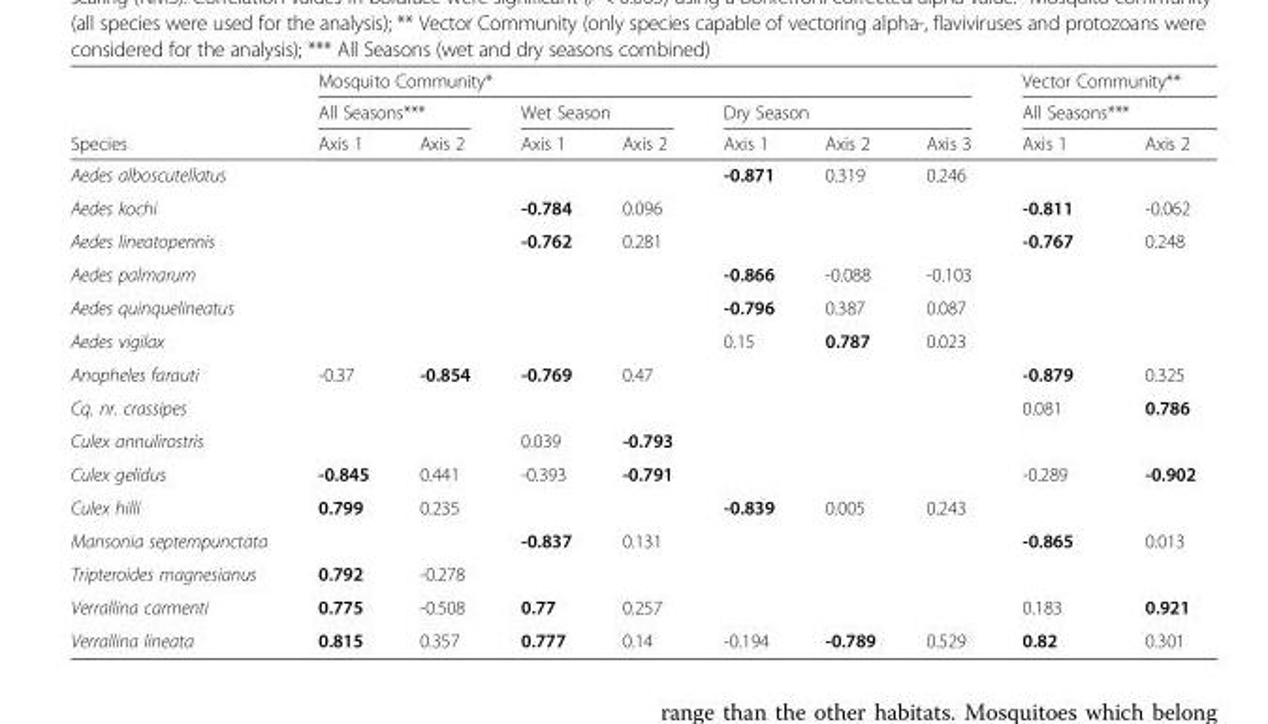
<table><thead><tr><td rowspan="3">Species</td><td colspan="7">Mosquito Community*</td><td rowspan="2" colspan="2">Vector Community** All Seasons***</td></tr><tr><td colspan="2">All Seasons***</td><td colspan="2">Wet Season</td><td colspan="3">Dry Season</td></tr><tr><td>Axis 1</td><td>Axis 2</td><td>Axis 1</td><td>Axis 2</td><td>Axis 1</td><td>Axis 2</td><td>Axis 3</td><td>Axis 1</td><td>Axis 2</td></tr></thead><tbody><tr><td>Aedes alboscutellatus</td><td></td><td></td><td></td><td></td><td>-0.871</td><td>0.319</td><td>0.246</td><td></td><td></td></tr><tr><td>Aedes kochi</td><td></td><td></td><td>-0.784</td><td>0.096</td><td></td><td></td><td></td><td>-0.811</td><td>-0.062</td></tr><tr><td>Aedes lineatopennis</td><td></td><td></td><td>-0.762</td><td>0.281</td><td></td><td></td><td></td><td>-0.767</td><td>0.248</td></tr><tr><td>Aedes palmarum</td><td></td><td></td><td></td><td></td><td>-0.866</td><td>-0.088</td><td>-0.103</td><td></td><td></td></tr><tr><td>Aedes quinquelineatus</td><td></td><td></td><td></td><td></td><td>-0.796</td><td>0.387</td><td>0.087</td><td></td><td></td></tr><tr><td>Aedes vigilax</td><td></td><td></td><td></td><td></td><td>0.15</td><td>0.787</td><td>0.023</td><td></td><td></td></tr><tr><td>Anopheles farauti</td><td>-0.37</td><td>-0.854</td><td>-0.769</td><td>0.47</td><td></td><td></td><td></td><td>-0.879</td><td>0.325</td></tr><tr><td>Cq. nr. crassipes</td><td></td><td></td><td></td><td></td><td></td><td></td><td></td><td>0.081</td><td>0.786</td></tr><tr><td>Culex annulirostris</td><td></td><td></td><td>0.039</td><td>-0.793</td><td></td><td></td><td></td><td></td><td></td></tr><tr><td>Culex gelidus</td><td>-0.845</td><td>0.441</td><td>-0.393</td><td>-0.791</td><td></td><td></td><td></td><td>-0.289</td><td>-0.902</td></tr><tr><td>Culex hilli</td><td>0.799</td><td>0.235</td><td></td><td></td><td>-0.839</td><td>0.005</td><td>0.243</td><td></td><td></td></tr><tr><td>Mansonia septempunctata</td><td></td><td></td><td>-0.837</td><td>0.131</td><td></td><td></td><td></td><td>-0.865</td><td>0.013</td></tr><tr><td>Tripteroides magnesianus</td><td>0.792</td><td>-0.278</td><td></td><td></td><td></td><td></td><td></td><td></td><td></td></tr><tr><td>Verrallina carmenti</td><td>0.775</td><td>-0.508</td><td>0.77</td><td>0.257</td><td></td><td></td><td></td><td>0.183</td><td>0.921</td></tr><tr><td>Verrallina lineata</td><td>0.815</td><td>0.357</td><td>0.777</td><td>0.14</td><td>-0.194</td><td>-0.789</td><td>0.529</td><td>0.82</td><td>0.301</td></tr></tbody></table>